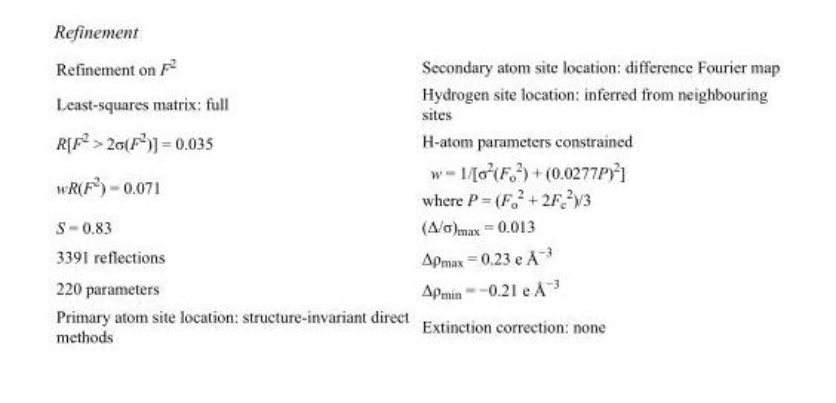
<table><tbody><tr><td>Refinement on F<sup>2</sup></td><td>Secondary atom site location: difference Fourier map</td></tr><tr><td>Least-squares matrix: full</td><td>Hydrogen site location: inferred from neighbouring sites</td></tr><tr><td>R[F<sup>2</sup> &gt; 2σ(F<sup>2</sup>)] = 0.035</td><td>H-atom parameters constrained</td></tr><tr><td>wR(F<sup>2</sup>) = 0.071</td><td>w = 1/[σ<sup>2</sup>(F<sub>o</sub> <sup>2</sup>) + (0.0277P)<sup>2</sup>] where P = (F<sub>o</sub> <sup>2</sup> + 2F<sub>c</sub> <sup>2</sup>)/3</td></tr><tr><td>S = 0.83</td><td>(Δ/σ)<sub>max</sub> = 0.013</td></tr><tr><td>3391 reflections</td><td>Δρ<sub>max</sub> = 0.23 e Å<sup>−3</sup></td></tr><tr><td>220 parameters</td><td>Δρ<sub>min</sub> = −0.21 e Å<sup>−3</sup></td></tr><tr><td>Primary atom site location: structure-invariant direct methods</td><td>Extinction correction: none</td></tr></tbody></table>